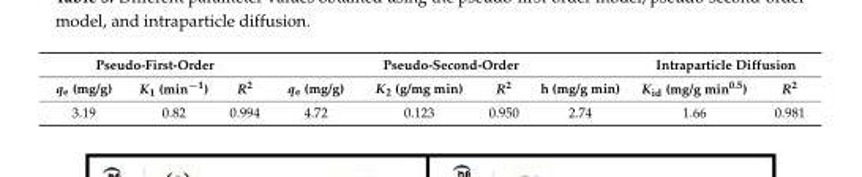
<table><thead><tr><td colspan="3">Pseudo-First-Order</td><td colspan="4">Pseudo-Second-Order</td><td colspan="2">Intraparticle Diffusion</td></tr><tr><td>q<sub>e</sub> (mg/g)</td><td>K<sub>1</sub> (min<sup>−1</sup>)</td><td>R<sup>2</sup></td><td>q<sub>e</sub> (mg/g)</td><td>K<sub>2</sub> (g/mg min)</td><td>R<sup>2</sup></td><td>h (mg/g min)</td><td>K<sub>id</sub> (mg/g min<sup>0.5</sup>)</td><td>R<sup>2</sup></td></tr></thead><tbody><tr><td>3.19</td><td>0.82</td><td>0.994</td><td>4.72</td><td>0.123</td><td>0.950</td><td>2.74</td><td>1.66</td><td>0.981</td></tr></tbody></table>